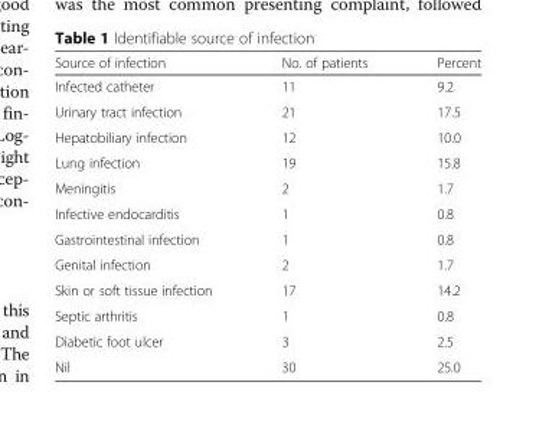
<table><thead><tr><td>Source of infection</td><td>No. of patients</td><td>Percent</td></tr></thead><tbody><tr><td>Infected catheter</td><td>11</td><td>9.2</td></tr><tr><td>Urinary tract infection</td><td>21</td><td>17.5</td></tr><tr><td>Hepatobiliary infection</td><td>12</td><td>10.0</td></tr><tr><td>Lung infection</td><td>19</td><td>15.8</td></tr><tr><td>Meningitis</td><td>2</td><td>1.7</td></tr><tr><td>Infective endocarditis</td><td>1</td><td>0.8</td></tr><tr><td>Gastrointestinal infection</td><td>1</td><td>0.8</td></tr><tr><td>Genital infection</td><td>2</td><td>1.7</td></tr><tr><td>Skin or soft tissue infection</td><td>17</td><td>14.2</td></tr><tr><td>Septic arthritis</td><td>1</td><td>0.8</td></tr><tr><td>Diabetic foot ulcer</td><td>3</td><td>2.5</td></tr><tr><td>Nil</td><td>30</td><td>25.0</td></tr></tbody></table>